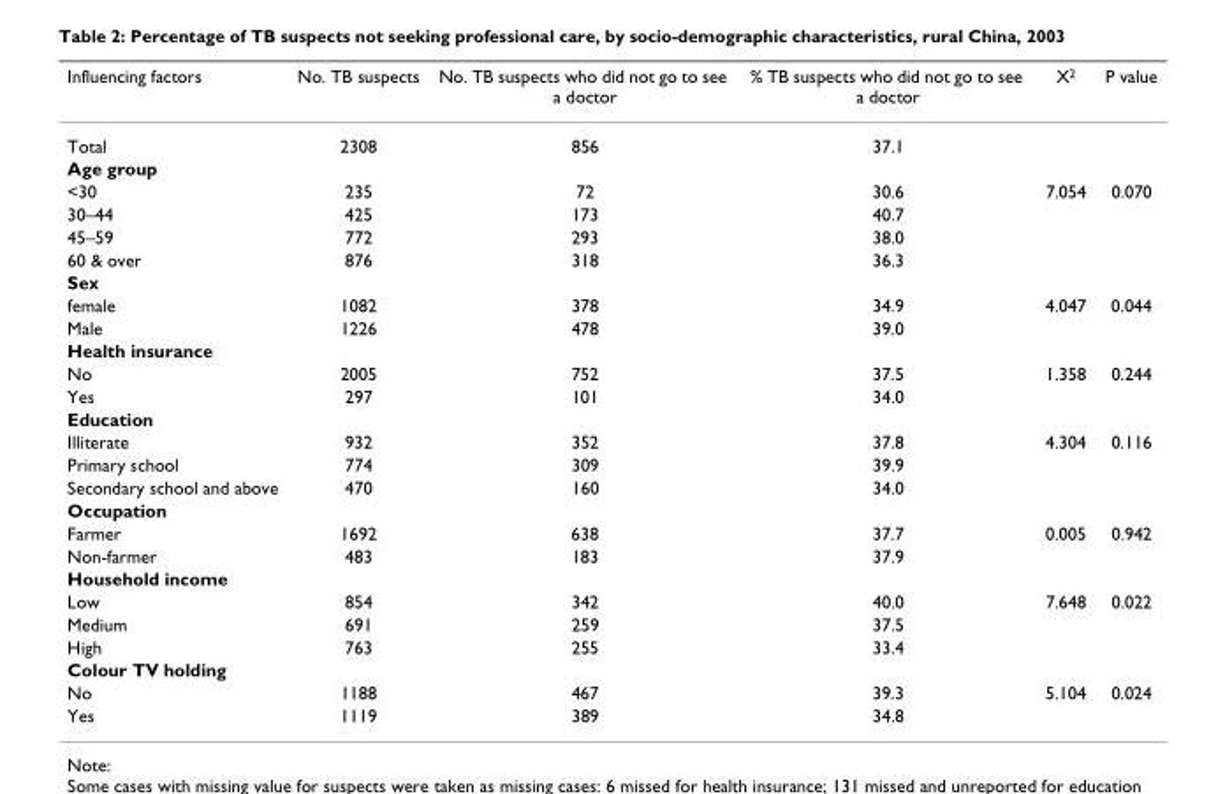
<table><thead><tr><td>Influencing factors</td><td>No. TB suspects</td><td>No. TB suspects who did not go to see a doctor</td><td>% TB suspects who did not go to see a doctor</td><td>X<sup>2</sup></td><td>P value</td></tr></thead><tbody><tr><td>Total</td><td>2308</td><td>856</td><td>37.1</td><td></td><td></td></tr><tr><td colspan="6">Age group</td></tr><tr><td>&lt;30</td><td>235</td><td>72</td><td>30.6</td><td>7.054</td><td>0.070</td></tr><tr><td>30–44</td><td>425</td><td>173</td><td>40.7</td><td></td><td></td></tr><tr><td>45–59</td><td>772</td><td>293</td><td>38.0</td><td></td><td></td></tr><tr><td>60 &amp; over</td><td>876</td><td>318</td><td>36.3</td><td></td><td></td></tr><tr><td colspan="6">Sex</td></tr><tr><td>female</td><td>1082</td><td>378</td><td>34.9</td><td>4.047</td><td>0.044</td></tr><tr><td>Male</td><td>1226</td><td>478</td><td>39.0</td><td></td><td></td></tr><tr><td colspan="6">Health insurance</td></tr><tr><td>No</td><td>2005</td><td>752</td><td>37.5</td><td>1.358</td><td>0.244</td></tr><tr><td>Yes</td><td>297</td><td>101</td><td>34.0</td><td></td><td></td></tr><tr><td colspan="6">Education</td></tr><tr><td>Illiterate</td><td>932</td><td>352</td><td>37.8</td><td>4.304</td><td>0.116</td></tr><tr><td>Primary school</td><td>774</td><td>309</td><td>39.9</td><td></td><td></td></tr><tr><td>Secondary school and above</td><td>470</td><td>160</td><td>34.0</td><td></td><td></td></tr><tr><td colspan="6">Occupation</td></tr><tr><td>Farmer</td><td>1692</td><td>638</td><td>37.7</td><td>0.005</td><td>0.942</td></tr><tr><td>Non-farmer</td><td>483</td><td>183</td><td>37.9</td><td></td><td></td></tr><tr><td colspan="6">Household income</td></tr><tr><td>Low</td><td>854</td><td>342</td><td>40.0</td><td>7.648</td><td>0.022</td></tr><tr><td>Medium</td><td>691</td><td>259</td><td>37.5</td><td></td><td></td></tr><tr><td>High</td><td>763</td><td>255</td><td>33.4</td><td></td><td></td></tr><tr><td colspan="6">Colour TV holding</td></tr><tr><td>No</td><td>1188</td><td>467</td><td>39.3</td><td>5.104</td><td>0.024</td></tr><tr><td>Yes</td><td>1119</td><td>389</td><td>34.8</td><td></td><td></td></tr></tbody></table>